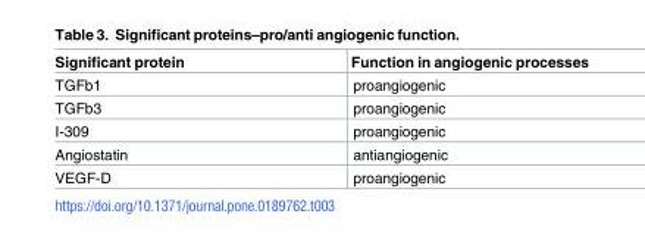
<table><thead><tr><td>Significant protein</td><td>Function in angiogenic processes</td></tr></thead><tbody><tr><td>TGFb1</td><td>proangiogenic</td></tr><tr><td>TGFb3</td><td>proangiogenic</td></tr><tr><td>I-309</td><td>proangiogenic</td></tr><tr><td>Angiostatin</td><td>antiangiogenic</td></tr><tr><td>VEGF-D</td><td>proangiogenic</td></tr></tbody></table>